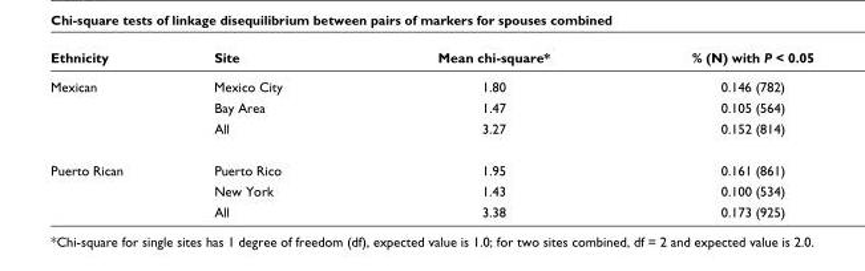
<table><thead><tr><td>Ethnicity</td><td>Site</td><td>Mean chi-square*</td><td>% (N) with P &lt; 0.05</td></tr></thead><tbody><tr><td rowspan="3">Mexican</td><td>Mexico City</td><td>1.80</td><td>0.146 (782)</td></tr><tr><td>Bay Area</td><td>1.47</td><td>0.105 (564)</td></tr><tr><td>All</td><td>3.27</td><td>0.152 (814)</td></tr><tr><td rowspan="3">Puerto Rican</td><td>Puerto Rico</td><td>1.95</td><td>0.161 (861)</td></tr><tr><td>New York</td><td>1.43</td><td>0.100 (534)</td></tr><tr><td>All</td><td>3.38</td><td>0.173 (925)</td></tr></tbody></table>